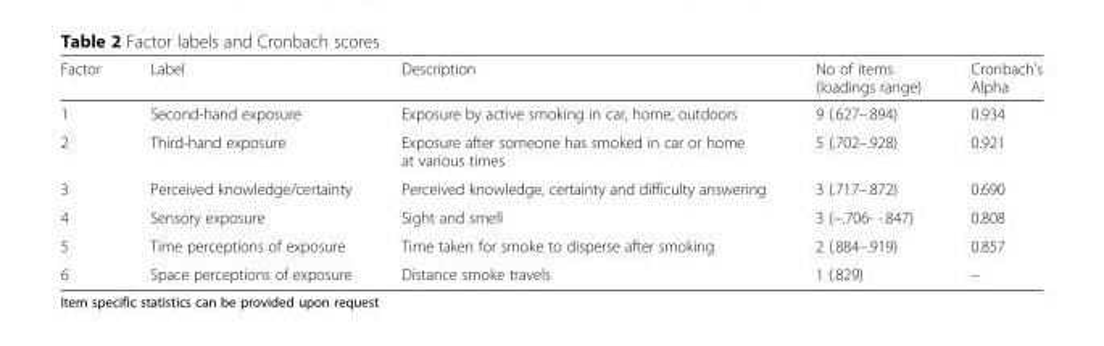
<table><thead><tr><td>Factor</td><td>Label</td><td>Description</td><td>No of items (loadings range)</td><td>Cronbach’s Alpha</td></tr></thead><tbody><tr><td>1</td><td>Second-hand exposure</td><td>Exposure by active smoking in car, home, outdoors</td><td>9 (.627–.894)</td><td>0.934</td></tr><tr><td>2</td><td>Third-hand exposure</td><td>Exposure after someone has smoked in car or home at various times</td><td>5 (.702–.928)</td><td>0.921</td></tr><tr><td>3</td><td>Perceived knowledge/certainty</td><td>Perceived knowledge, certainty and difficulty answering</td><td>3 (.717–.872)</td><td>0.690</td></tr><tr><td>4</td><td>Sensory exposure</td><td>Sight and smell</td><td>3 (−.706- -.847)</td><td>0.808</td></tr><tr><td>5</td><td>Time perceptions of exposure</td><td>Time taken for smoke to disperse after smoking</td><td>2 (.884–.919)</td><td>0.857</td></tr><tr><td>6</td><td>Space perceptions of exposure</td><td>Distance smoke travels</td><td>1 (.829)</td><td>–</td></tr></tbody></table>